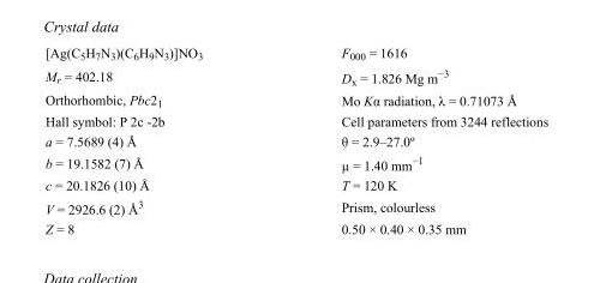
<table><tbody><tr><td>[Ag(C<sub>5</sub>H<sub>7</sub>N<sub>3</sub>)(C<sub>6</sub>H<sub>9</sub>N<sub>3</sub>)]NO<sub>3</sub></td><td>F000 = 1616</td></tr><tr><td>M<sub>r</sub> = 402.18</td><td>D<sub>x</sub> = 1.826 Mg m<sup>−3</sup></td></tr><tr><td>Orthorhombic, Pbc2<sub>1</sub></td><td>Mo Kα radiation, λ = 0.71073 Å</td></tr><tr><td>Hall symbol: P 2c -2b</td><td>Cell parameters from 3244 reflections</td></tr><tr><td>a = 7.5689 (4) Å</td><td>θ = 2.9–27.0º</td></tr><tr><td>b = 19.1582 (7) Å</td><td>µ = 1.40 mm<sup>−1</sup></td></tr><tr><td>c = 20.1826 (10) Å</td><td>T = 120 K</td></tr><tr><td>V = 2926.6 (2) Å<sup>3</sup></td><td>Prism, colourless</td></tr><tr><td>Z = 8</td><td>0.50 × 0.40 × 0.35 mm</td></tr></tbody></table>